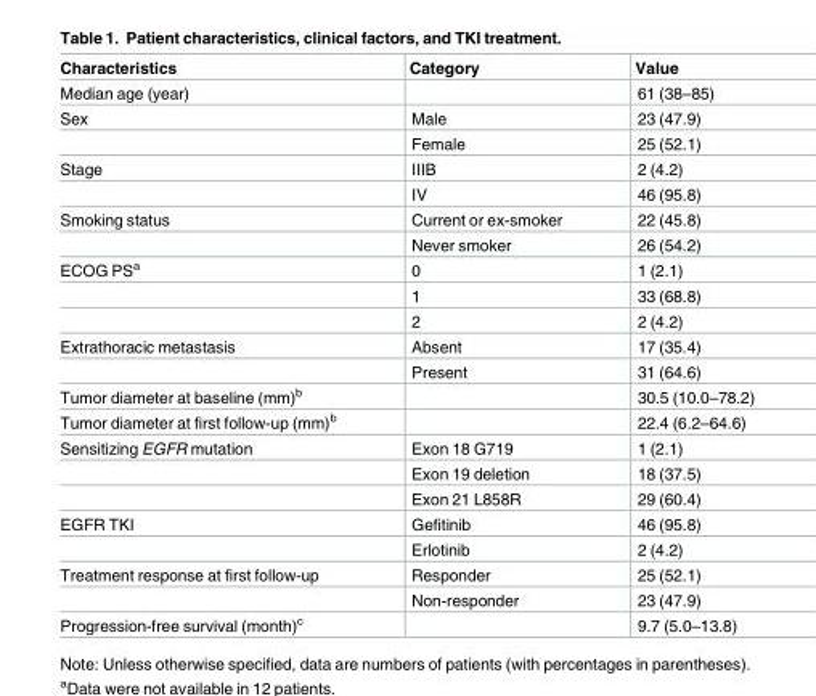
<table><thead><tr><td>Characteristics</td><td>Category</td><td>Value</td></tr></thead><tbody><tr><td>Median age (year)</td><td></td><td>61 (38–85)</td></tr><tr><td rowspan="2">Sex</td><td>Male</td><td>23 (47.9)</td></tr><tr><td>Female</td><td>25 (52.1)</td></tr><tr><td rowspan="2">Stage</td><td>IIIB</td><td>2 (4.2)</td></tr><tr><td>IV</td><td>46 (95.8)</td></tr><tr><td rowspan="2">Smoking status</td><td>Current or ex-smoker</td><td>22 (45.8)</td></tr><tr><td>Never smoker</td><td>26 (54.2)</td></tr><tr><td rowspan="3">ECOG PS<sup>a</sup></td><td>0</td><td>1 (2.1)</td></tr><tr><td>1</td><td>33 (68.8)</td></tr><tr><td>2</td><td>2 (4.2)</td></tr><tr><td rowspan="2">Extrathoracic metastasis</td><td>Absent</td><td>17 (35.4)</td></tr><tr><td>Present</td><td>31 (64.6)</td></tr><tr><td>Tumor diameter at baseline (mm)<sup>b</sup></td><td></td><td>30.5 (10.0–78.2)</td></tr><tr><td>Tumor diameter at first follow-up (mm)<sup>b</sup></td><td></td><td>22.4 (6.2–64.6)</td></tr><tr><td rowspan="3">Sensitizing EGFR mutation</td><td>Exon 18 G719</td><td>1 (2.1)</td></tr><tr><td>Exon 19 deletion</td><td>18 (37.5)</td></tr><tr><td>Exon 21 L858R</td><td>29 (60.4)</td></tr><tr><td rowspan="2">EGFR TKI</td><td>Gefitinib</td><td>46 (95.8)</td></tr><tr><td>Erlotinib</td><td>2 (4.2)</td></tr><tr><td rowspan="2">Treatment response at first follow-up</td><td>Responder</td><td>25 (52.1)</td></tr><tr><td>Non-responder</td><td>23 (47.9)</td></tr><tr><td>Progression-free survival (month)<sup>c</sup></td><td></td><td>9.7 (5.0–13.8)</td></tr></tbody></table>